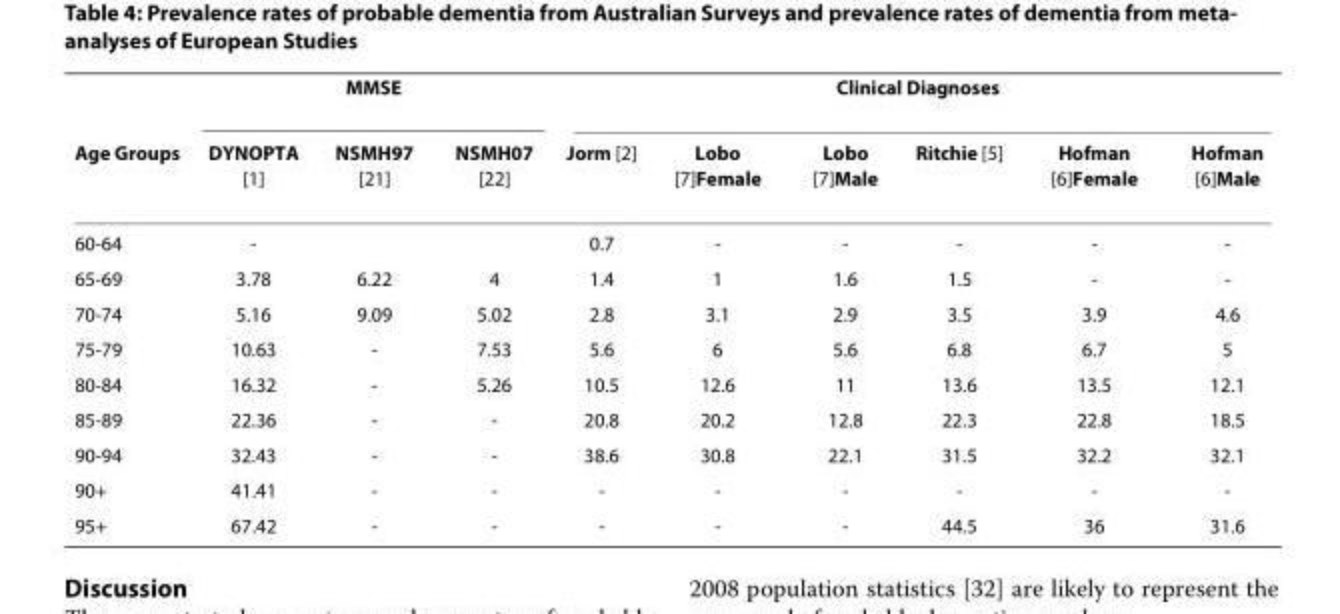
<table><thead><tr><td rowspan="2">Age Groups</td><td colspan="3">MMSE</td><td colspan="6">Clinical Diagnoses</td></tr><tr><td>DYNOPTA [1]</td><td>NSMH97 [21]</td><td>NSMH07 [22]</td><td>Jorm [2]</td><td>Lobo [7]Female</td><td>Lobo [7]Male</td><td>Ritchie [5]</td><td>Hofman [6]Female</td><td>Hofman [6]Male</td></tr></thead><tbody><tr><td>60-64</td><td>-</td><td></td><td></td><td>0.7</td><td>-</td><td>-</td><td>-</td><td>-</td><td>-</td></tr><tr><td>65-69</td><td>3.78</td><td>6.22</td><td>4</td><td>1.4</td><td>1</td><td>1.6</td><td>1.5</td><td>-</td><td>-</td></tr><tr><td>70-74</td><td>5.16</td><td>9.09</td><td>5.02</td><td>2.8</td><td>3.1</td><td>2.9</td><td>3.5</td><td>3.9</td><td>4.6</td></tr><tr><td>75-79</td><td>10.63</td><td>-</td><td>7.53</td><td>5.6</td><td>6</td><td>5.6</td><td>6.8</td><td>6.7</td><td>5</td></tr><tr><td>80-84</td><td>16.32</td><td>-</td><td>5.26</td><td>10.5</td><td>12.6</td><td>11</td><td>13.6</td><td>13.5</td><td>12.1</td></tr><tr><td>85-89</td><td>22.36</td><td>-</td><td>-</td><td>20.8</td><td>20.2</td><td>12.8</td><td>22.3</td><td>22.8</td><td>18.5</td></tr><tr><td>90-94</td><td>32.43</td><td>-</td><td>-</td><td>38.6</td><td>30.8</td><td>22.1</td><td>31.5</td><td>32.2</td><td>32.1</td></tr><tr><td>90+</td><td>41.41</td><td>-</td><td>-</td><td>-</td><td>-</td><td>-</td><td>-</td><td>-</td><td>-</td></tr><tr><td>95+</td><td>67.42</td><td>-</td><td>-</td><td>-</td><td>-</td><td>-</td><td>44.5</td><td>36</td><td>31.6</td></tr></tbody></table>